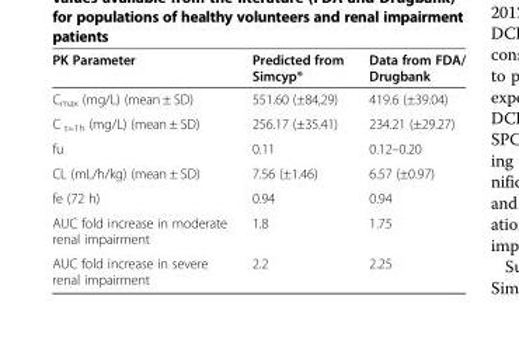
<table><thead><tr><td>PK Parameter</td><td>Predicted from Simcyp®</td><td>Data from FDA/ Drugbank</td></tr></thead><tbody><tr><td>C<sub>max</sub> (mg/L) (mean ± SD)</td><td>551.60 (±84,29)</td><td>419.6 (±39.04)</td></tr><tr><td>C <sub>t=1h</sub> (mg/L) (mean ± SD)</td><td>256.17 (±35.41)</td><td>234.21 (±29.27)</td></tr><tr><td>fu</td><td>0.11</td><td>0.12–0.20</td></tr><tr><td>CL (mL/h/kg) (mean ± SD)</td><td>7.56 (±1.46)</td><td>6.57 (±0.97)</td></tr><tr><td>fe (72 h)</td><td>0.94</td><td>0.94</td></tr><tr><td>AUC fold increase in moderate renal impairment</td><td>1.8</td><td>1.75</td></tr><tr><td>AUC fold increase in severe renal impairment</td><td>2.2</td><td>2.25</td></tr></tbody></table>